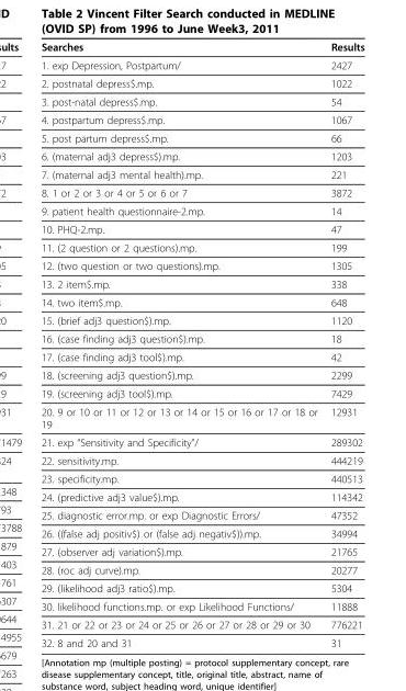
<table><thead><tr><td>Searches</td><td>Results</td></tr></thead><tbody><tr><td>1. exp Depression, Postpartum/</td><td>2427</td></tr><tr><td>2. postnatal depress$.mp.</td><td>1022</td></tr><tr><td>3. post-natal depress$.mp.</td><td>54</td></tr><tr><td>4. postpartum depress$.mp.</td><td>1067</td></tr><tr><td>5. post partum depress$.mp.</td><td>66</td></tr><tr><td>6. (maternal adj3 depress$).mp.</td><td>1203</td></tr><tr><td>7. (maternal adj3 mental health).mp.</td><td>221</td></tr><tr><td>8. 1 or 2 or 3 or 4 or 5 or 6 or 7</td><td>3872</td></tr><tr><td>9. patient health questionnaire-2.mp.</td><td>14</td></tr><tr><td>10. PHQ-2.mp.</td><td>47</td></tr><tr><td>11. (2 question or 2 questions).mp.</td><td>199</td></tr><tr><td>12. (two question or two questions).mp.</td><td>1305</td></tr><tr><td>13. 2 item$.mp.</td><td>338</td></tr><tr><td>14. two item$.mp.</td><td>648</td></tr><tr><td>15. (brief adj3 question$).mp.</td><td>1120</td></tr><tr><td>16. (case finding adj3 question$).mp.</td><td>18</td></tr><tr><td>17. (case finding adj3 tool$).mp.</td><td>42</td></tr><tr><td>18. (screening adj3 question$).mp.</td><td>2299</td></tr><tr><td>19. (screening adj3 tool$).mp.</td><td>7429</td></tr><tr><td>20. 9 or 10 or 11 or 12 or 13 or 14 or 15 or 16 or 17 or 18 or 19</td><td>12931</td></tr><tr><td>21. exp “Sensitivity and Specificity&quot;/</td><td>289302</td></tr><tr><td>22. sensitivity.mp.</td><td>444219</td></tr><tr><td>23. specificity.mp.</td><td>440513</td></tr><tr><td>24. (predictive adj3 value$).mp.</td><td>114342</td></tr><tr><td>25. diagnostic error.mp. or exp Diagnostic Errors/</td><td>47352</td></tr><tr><td>26. ((false adj positiv$) or (false adj negativ$)).mp.</td><td>34994</td></tr><tr><td>27. (observer adj variation$).mp.</td><td>21765</td></tr><tr><td>28. (roc adj curve).mp.</td><td>20277</td></tr><tr><td>29. (likelihood adj3 ratio$).mp.</td><td>5304</td></tr><tr><td>30. likelihood functions.mp. or exp Likelihood Functions/</td><td>11888</td></tr><tr><td>31. 21 or 22 or 23 or 24 or 25 or 26 or 27 or 28 or 29 or 30</td><td>776221</td></tr><tr><td>32. 8 and 20 and 31</td><td>31</td></tr></tbody></table>